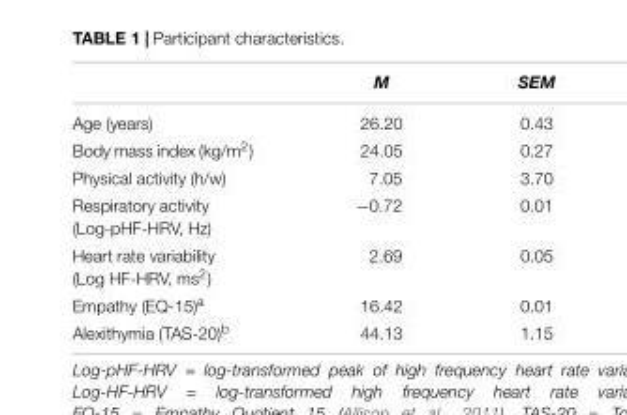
<table><thead><tr><td></td><td>M</td><td>SEM</td></tr></thead><tbody><tr><td>Age (years)</td><td>26.20</td><td>0.43</td></tr><tr><td>Body mass index (kg/m<sup>2</sup>)</td><td>24.05</td><td>0.27</td></tr><tr><td>Physical activity (h/w)</td><td>7.05</td><td>3.70</td></tr><tr><td>Respiratory activity (Log-pHF-HRV, Hz)</td><td>−0.72</td><td>0.01</td></tr><tr><td>Heart rate variability (Log HF-HRV, ms<sup>2</sup>)</td><td>2.69</td><td>0.05</td></tr><tr><td>Empathy (EQ-15)<sup>a</sup></td><td>16.42</td><td>0.01</td></tr><tr><td>Alexithymia (TAS-20)<sup>b</sup></td><td>44.13</td><td>1.15</td></tr></tbody></table>